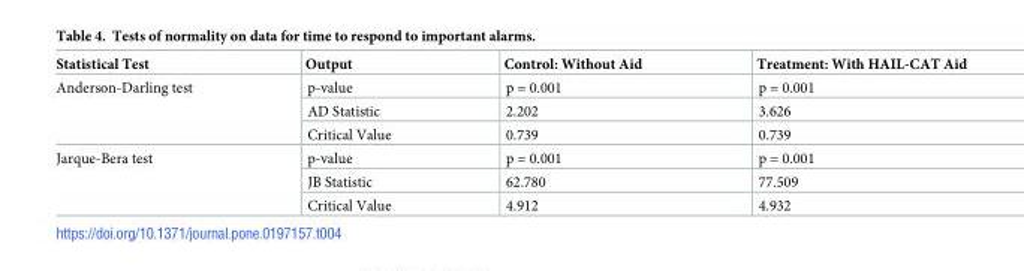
<table><thead><tr><td>Statistical Test</td><td>Output</td><td>Control: Without Aid</td><td>Treatment: With HAIL-CAT Aid</td></tr></thead><tbody><tr><td rowspan="3">Anderson-Darling test</td><td>p-value</td><td>p = 0.001</td><td>p = 0.001</td></tr><tr><td>AD Statistic</td><td>2.202</td><td>3.626</td></tr><tr><td>Critical Value</td><td>0.739</td><td>0.739</td></tr><tr><td rowspan="3">Jarque-Bera test</td><td>p-value</td><td>p = 0.001</td><td>p = 0.001</td></tr><tr><td>JB Statistic</td><td>62.780</td><td>77.509</td></tr><tr><td>Critical Value</td><td>4.912</td><td>4.932</td></tr></tbody></table>